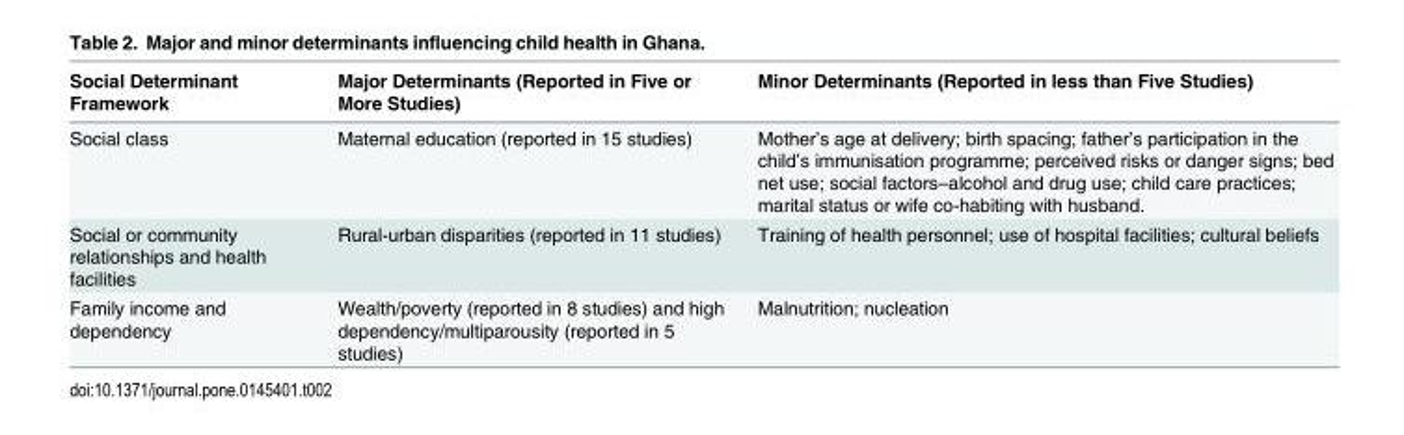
<table><thead><tr><td>Social Determinant Framework</td><td>Major Determinants (Reported in Five or More Studies)</td><td>Minor Determinants (Reported in less than Five Studies)</td></tr></thead><tbody><tr><td>Social class</td><td>Maternal education (reported in 15 studies)</td><td>Mother’s age at delivery; birth spacing; father’s participation in the child’s immunisation programme; perceived risks or danger signs; bed net use; social factors–alcohol and drug use; child care practices; marital status or wife co-habiting with husband.</td></tr><tr><td>Social or community relationships and health facilities</td><td>Rural-urban disparities (reported in 11 studies)</td><td>Training of health personnel; use of hospital facilities; cultural beliefs</td></tr><tr><td>Family income and dependency</td><td>Wealth/poverty (reported in 8 studies) and high dependency/multiparousity (reported in 5 studies)</td><td>Malnutrition; nucleation</td></tr></tbody></table>